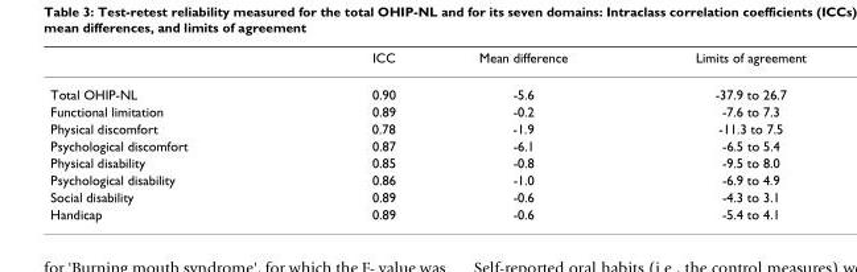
<table><thead><tr><td></td><td>ICC</td><td>Mean difference</td><td>Limits of agreement</td></tr></thead><tbody><tr><td>Total OHIP-NL</td><td>0.90</td><td>-5.6</td><td>-37.9 to 26.7</td></tr><tr><td>Functional limitation</td><td>0.89</td><td>-0.2</td><td>-7.6 to 7.3</td></tr><tr><td>Physical discomfort</td><td>0.78</td><td>-1.9</td><td>-11.3 to 7.5</td></tr><tr><td>Psychological discomfort</td><td>0.87</td><td>-6.1</td><td>-6.5 to 5.4</td></tr><tr><td>Physical disability</td><td>0.85</td><td>-0.8</td><td>-9.5 to 8.0</td></tr><tr><td>Psychological disability</td><td>0.86</td><td>-1.0</td><td>-6.9 to 4.9</td></tr><tr><td>Social disability</td><td>0.89</td><td>-0.6</td><td>-4.3 to 3.1</td></tr><tr><td>Handicap</td><td>0.89</td><td>-0.6</td><td>-5.4 to 4.1</td></tr></tbody></table>